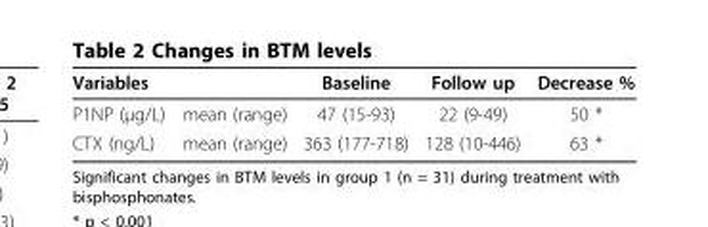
<table><thead><tr><td>Variables</td><td></td><td>Baseline</td><td>Follow up</td><td>Decrease %</td></tr></thead><tbody><tr><td>P1NP (μg/L)</td><td>mean (range)</td><td>47 (15-93)</td><td>22 (9-49)</td><td>50 *</td></tr><tr><td>CTX (ng/L)</td><td>mean (range)</td><td>363 (177-718)</td><td>128 (10-446)</td><td>63 *</td></tr></tbody></table>